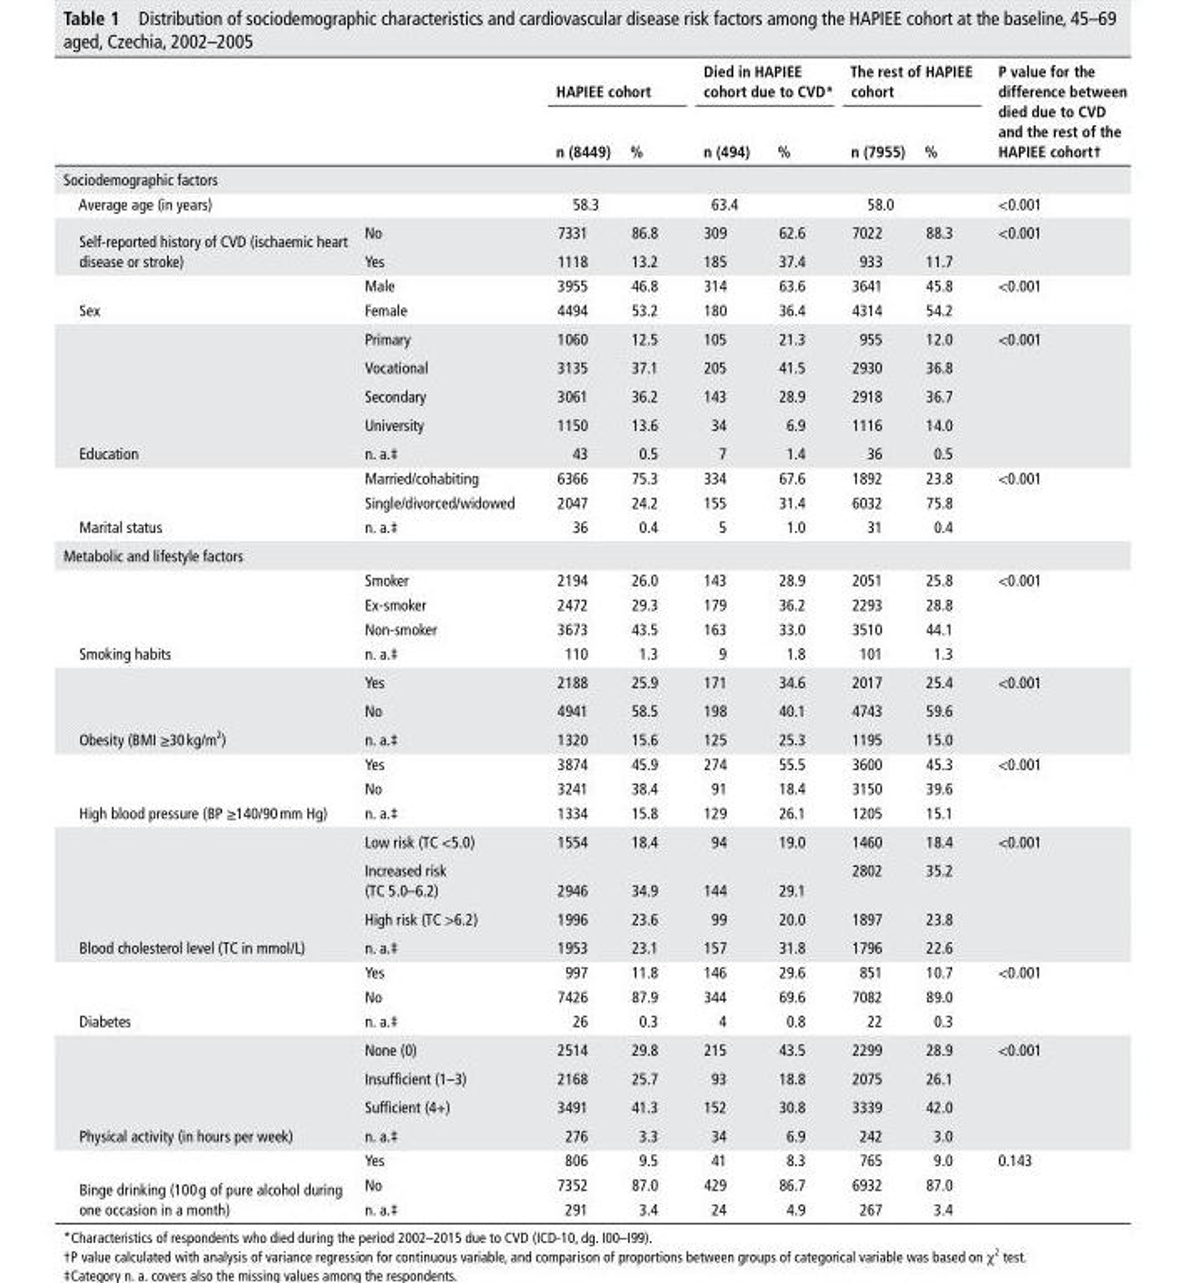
<table><thead><tr><td rowspan="2"></td><td rowspan="2"></td><td colspan="2">hAPIee cohort</td><td colspan="2">died in hAPIee cohort due to CVd*</td><td colspan="2">The rest of hAPIee cohort</td><td rowspan="2">P value for the difference between died due to CVd and the rest of the hAPIee cohort†</td></tr><tr><td>n (8449)</td><td>%</td><td>n (494)</td><td>%</td><td>n (7955)</td><td>%</td></tr></thead><tbody><tr><td colspan="9">Sociodemographic factors</td></tr><tr><td>Average age (in years)</td><td></td><td>58.3</td><td></td><td>63.4</td><td></td><td>58.0</td><td></td><td>&lt;0.001</td></tr><tr><td rowspan="2">Self-reported history of CVD (ischaemic heart disease or stroke)</td><td>No</td><td>7331</td><td>86.8</td><td>309</td><td>62.6</td><td>7022</td><td>88.3</td><td rowspan="2">&lt;0.001</td></tr><tr><td>Yes</td><td>1118</td><td>13.2</td><td>185</td><td>37.4</td><td>933</td><td>11.7</td></tr><tr><td rowspan="2">Sex</td><td>Male</td><td>3955</td><td>46.8</td><td>314</td><td>63.6</td><td>3641</td><td>45.8</td><td rowspan="2">&lt;0.001</td></tr><tr><td>Female</td><td>4494</td><td>53.2</td><td>180</td><td>36.4</td><td>4314</td><td>54.2</td></tr><tr><td rowspan="5">Education</td><td>Primary</td><td>1060</td><td>12.5</td><td>105</td><td>21.3</td><td>955</td><td>12.0</td><td rowspan="5">&lt;0.001</td></tr><tr><td>Vocational</td><td>3135</td><td>37.1</td><td>205</td><td>41.5</td><td>2930</td><td>36.8</td></tr><tr><td>Secondary</td><td>3061</td><td>36.2</td><td>143</td><td>28.9</td><td>2918</td><td>36.7</td></tr><tr><td>University</td><td>1150</td><td>13.6</td><td>34</td><td>6.9</td><td>1116</td><td>14.0</td></tr><tr><td>n. a.‡</td><td>43</td><td>0.5</td><td>7</td><td>1.4</td><td>36</td><td>0.5</td></tr><tr><td rowspan="3">Marital status</td><td>Married/cohabiting</td><td>6366</td><td>75.3</td><td>334</td><td>67.6</td><td>1892</td><td>23.8</td><td rowspan="3">&lt;0.001</td></tr><tr><td>Single/divorced/widowed</td><td>2047</td><td>24.2</td><td>155</td><td>31.4</td><td>6032</td><td>75.8</td></tr><tr><td>n. a.‡</td><td>36</td><td>0.4</td><td>5</td><td>1.0</td><td>31</td><td>0.4</td></tr><tr><td colspan="9">Metabolic and lifestyle factors</td></tr><tr><td rowspan="4">Smoking habits</td><td>Smoker</td><td>2194</td><td>26.0</td><td>143</td><td>28.9</td><td>2051</td><td>25.8</td><td rowspan="4">&lt;0.001</td></tr><tr><td>Ex-smoker</td><td>2472</td><td>29.3</td><td>179</td><td>36.2</td><td>2293</td><td>28.8</td></tr><tr><td>Non-smoker</td><td>3673</td><td>43.5</td><td>163</td><td>33.0</td><td>3510</td><td>44.1</td></tr><tr><td>n. a.‡</td><td>110</td><td>1.3</td><td>9</td><td>1.8</td><td>101</td><td>1.3</td></tr><tr><td rowspan="3">Obesity (BMI ≥30 kg/m<sup>2</sup>)</td><td>Yes</td><td>2188</td><td>25.9</td><td>171</td><td>34.6</td><td>2017</td><td>25.4</td><td rowspan="3">&lt;0.001</td></tr><tr><td>No</td><td>4941</td><td>58.5</td><td>198</td><td>40.1</td><td>4743</td><td>59.6</td></tr><tr><td>n. a.‡</td><td>1320</td><td>15.6</td><td>125</td><td>25.3</td><td>1195</td><td>15.0</td></tr><tr><td rowspan="3">High blood pressure (BP ≥140/90 mm Hg)</td><td>Yes</td><td>3874</td><td>45.9</td><td>274</td><td>55.5</td><td>3600</td><td>45.3</td><td rowspan="3">&lt;0.001</td></tr><tr><td>No</td><td>3241</td><td>38.4</td><td>91</td><td>18.4</td><td>3150</td><td>39.6</td></tr><tr><td>n. a.‡</td><td>1334</td><td>15.8</td><td>129</td><td>26.1</td><td>1205</td><td>15.1</td></tr><tr><td rowspan="4">Blood cholesterol level (TC in mmol/L)</td><td>Low risk (TC &lt;5.0)</td><td>1554</td><td>18.4</td><td>94</td><td>19.0</td><td>1460</td><td>18.4</td><td rowspan="4">&lt;0.001</td></tr><tr><td>Increased risk (TC 5.0–6.2)</td><td>2946</td><td>34.9</td><td>144</td><td>29.1</td><td>2802</td><td>35.2</td></tr><tr><td>High risk (TC &gt;6.2)</td><td>1996</td><td>23.6</td><td>99</td><td>20.0</td><td>1897</td><td>23.8</td></tr><tr><td>n. a.‡</td><td>1953</td><td>23.1</td><td>157</td><td>31.8</td><td>1796</td><td>22.6</td></tr><tr><td rowspan="3">Diabetes</td><td>Yes</td><td>997</td><td>11.8</td><td>146</td><td>29.6</td><td>851</td><td>10.7</td><td rowspan="3">&lt;0.001</td></tr><tr><td>No</td><td>7426</td><td>87.9</td><td>344</td><td>69.6</td><td>7082</td><td>89.0</td></tr><tr><td>n. a.‡</td><td>26</td><td>0.3</td><td>4</td><td>0.8</td><td>22</td><td>0.3</td></tr><tr><td rowspan="4">Physical activity (in hours per week)</td><td>None (0)</td><td>2514</td><td>29.8</td><td>215</td><td>43.5</td><td>2299</td><td>28.9</td><td rowspan="4">&lt;0.001</td></tr><tr><td>Insufficient (1–3)</td><td>2168</td><td>25.7</td><td>93</td><td>18.8</td><td>2075</td><td>26.1</td></tr><tr><td>Sufficient (4+)</td><td>3491</td><td>41.3</td><td>152</td><td>30.8</td><td>3339</td><td>42.0</td></tr><tr><td>n. a.‡</td><td>276</td><td>3.3</td><td>34</td><td>6.9</td><td>242</td><td>3.0</td></tr><tr><td rowspan="3">Binge drinking (100 g of pure alcohol during one occasion in a month)</td><td>Yes</td><td>806</td><td>9.5</td><td>41</td><td>8.3</td><td>765</td><td>9.0</td><td rowspan="3">0.143</td></tr><tr><td>No</td><td>7352</td><td>87.0</td><td>429</td><td>86.7</td><td>6932</td><td>87.0</td></tr><tr><td>n. a.‡</td><td>291</td><td>3.4</td><td>24</td><td>4.9</td><td>267</td><td>3.4</td></tr></tbody></table>